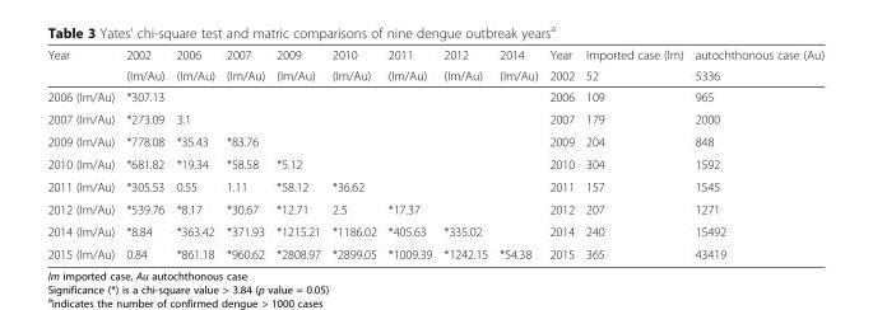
<table><thead><tr><td rowspan="2">Year</td><td rowspan="2">2002 (Im/Au)</td><td rowspan="2">2006 (Im/Au)</td><td rowspan="2">2007 (Im/Au)</td><td rowspan="2">2009 (Im/Au)</td><td rowspan="2">2010 (Im/Au)</td><td rowspan="2">2011 (Im/Au)</td><td rowspan="2">2012 (Im/Au)</td><td rowspan="2">2014 (Im/Au)</td><td rowspan="2">Year 2002</td><td rowspan="2">Imported case (Im) 52</td><td rowspan="2">autochthonous case (Au) 5336</td></tr><tr></tr></thead><tbody><tr><td>2006 (Im/Au)</td><td>*307.13</td><td></td><td></td><td></td><td></td><td></td><td></td><td></td><td>2006</td><td>109</td><td>965</td></tr><tr><td>2007 (Im/Au)</td><td>*273.09</td><td>3.1</td><td></td><td></td><td></td><td></td><td></td><td></td><td>2007</td><td>179</td><td>2000</td></tr><tr><td>2009 (Im/Au)</td><td>*778.08</td><td>*35.43</td><td>*83.76</td><td></td><td></td><td></td><td></td><td></td><td>2009</td><td>204</td><td>848</td></tr><tr><td>2010 (Im/Au)</td><td>*681.82</td><td>*19.34</td><td>*58.58</td><td>*5.12</td><td></td><td></td><td></td><td></td><td>2010</td><td>304</td><td>1592</td></tr><tr><td>2011 (Im/Au)</td><td>*305.53</td><td>0.55</td><td>1.11</td><td>*58.12</td><td>*36.62</td><td></td><td></td><td></td><td>2011</td><td>157</td><td>1545</td></tr><tr><td>2012 (Im/Au)</td><td>*539.76</td><td>*8.17</td><td>*30.67</td><td>*12.71</td><td>2.5</td><td>*17.37</td><td></td><td></td><td>2012</td><td>207</td><td>1271</td></tr><tr><td>2014 (Im/Au)</td><td>*8.84</td><td>*363.42</td><td>*371.93</td><td>*1215.21</td><td>*1186.02</td><td>*405.63</td><td>*335.02</td><td></td><td>2014</td><td>240</td><td>15492</td></tr><tr><td>2015 (Im/Au)</td><td>0.84</td><td>*861.18</td><td>*960.62</td><td>*2808.97</td><td>*2899.05</td><td>*1009.39</td><td>*1242.15</td><td>*54.38</td><td>2015</td><td>365</td><td>43419</td></tr></tbody></table>